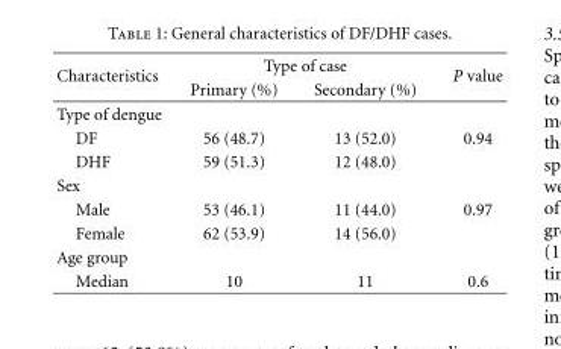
<table><thead><tr><td rowspan="2">Characteristics</td><td colspan="2">Type of case</td><td rowspan="2">P value</td></tr><tr><td>Primary (%)</td><td>Secondary (%)</td></tr></thead><tbody><tr><td colspan="4">Type of dengue</td></tr><tr><td>DF</td><td>56 (48.7)</td><td>13 (52.0)</td><td>0.94</td></tr><tr><td>DHF</td><td>59 (51.3)</td><td>12 (48.0)</td><td></td></tr><tr><td colspan="4">Sex</td></tr><tr><td>Male</td><td>53 (46.1)</td><td>11 (44.0)</td><td>0.97</td></tr><tr><td>Female</td><td>62 (53.9)</td><td>14 (56.0)</td><td></td></tr><tr><td colspan="4">Age group</td></tr><tr><td>Median</td><td>10</td><td>11</td><td>0.6</td></tr></tbody></table>